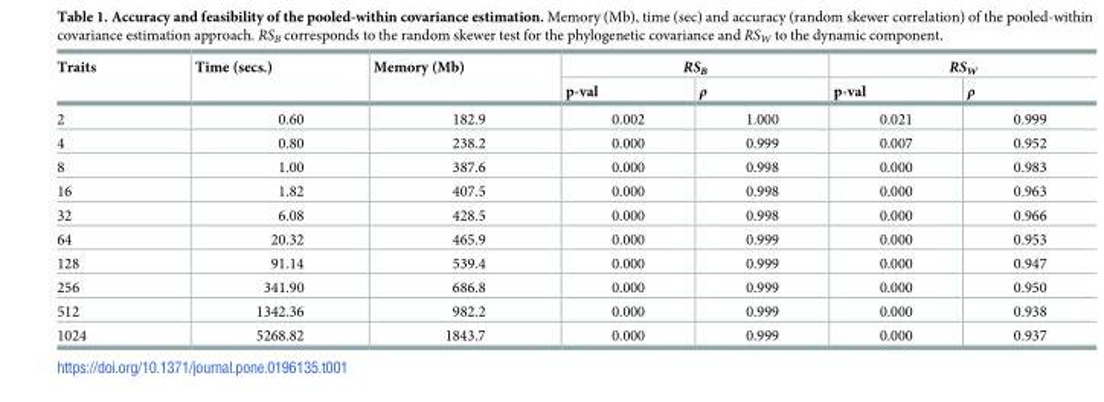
<table><thead><tr><td rowspan="2">Traits</td><td rowspan="2">Time (secs.)</td><td rowspan="2">Memory (Mb)</td><td colspan="2">RS<sub>B</sub></td><td colspan="2">RS<sub>W</sub></td></tr><tr><td>p-val</td><td>ρ</td><td>p-val</td><td>ρ</td></tr></thead><tbody><tr><td>2</td><td>0.60</td><td>182.9</td><td>0.002</td><td>1.000</td><td>0.021</td><td>0.999</td></tr><tr><td>4</td><td>0.80</td><td>238.2</td><td>0.000</td><td>0.999</td><td>0.007</td><td>0.952</td></tr><tr><td>8</td><td>1.00</td><td>387.6</td><td>0.000</td><td>0.998</td><td>0.000</td><td>0.983</td></tr><tr><td>16</td><td>1.82</td><td>407.5</td><td>0.000</td><td>0.998</td><td>0.000</td><td>0.963</td></tr><tr><td>32</td><td>6.08</td><td>428.5</td><td>0.000</td><td>0.998</td><td>0.000</td><td>0.966</td></tr><tr><td>64</td><td>20.32</td><td>465.9</td><td>0.000</td><td>0.999</td><td>0.000</td><td>0.953</td></tr><tr><td>128</td><td>91.14</td><td>539.4</td><td>0.000</td><td>0.999</td><td>0.000</td><td>0.947</td></tr><tr><td>256</td><td>341.90</td><td>686.8</td><td>0.000</td><td>0.999</td><td>0.000</td><td>0.950</td></tr><tr><td>512</td><td>1342.36</td><td>982.2</td><td>0.000</td><td>0.999</td><td>0.000</td><td>0.938</td></tr><tr><td>1024</td><td>5268.82</td><td>1843.7</td><td>0.000</td><td>0.999</td><td>0.000</td><td>0.937</td></tr></tbody></table>